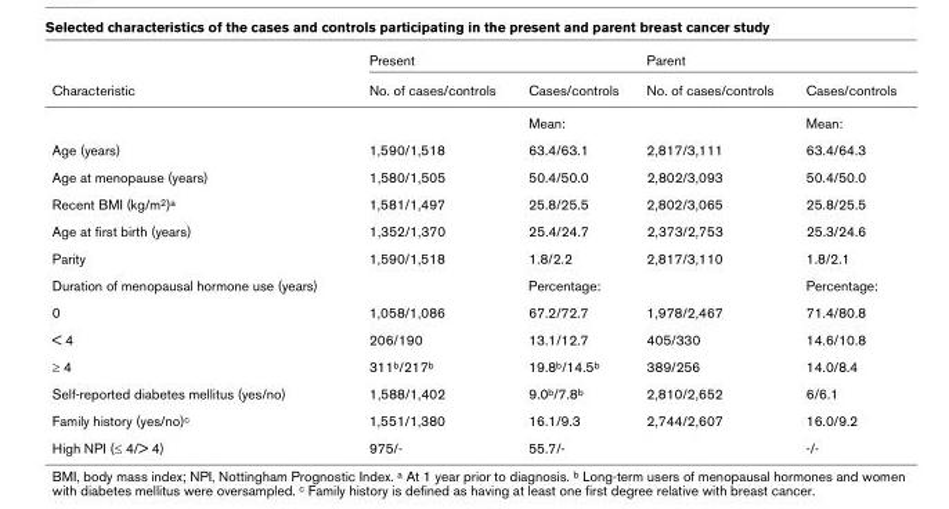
<table><thead><tr><td rowspan="2">Characteristic</td><td colspan="2">Present</td><td colspan="2">Parent</td></tr><tr><td>No. of cases/controls</td><td>Cases/controls</td><td>No. of cases/controls</td><td>Cases/controls</td></tr></thead><tbody><tr><td></td><td></td><td>Mean:</td><td></td><td>Mean:</td></tr><tr><td>Age (years)</td><td>1,590/1,518</td><td>63.4/63.1</td><td>2,817/3,111</td><td>63.4/64.3</td></tr><tr><td>Age at menopause (years)</td><td>1,580/1,505</td><td>50.4/50.0</td><td>2,802/3,093</td><td>50.4/50.0</td></tr><tr><td>Recent BMI (kg/m<sup>2</sup>)<sup>a</sup></td><td>1,581/1,497</td><td>25.8/25.5</td><td>2,802/3,065</td><td>25.8/25.5</td></tr><tr><td>Age at first birth (years)</td><td>1,352/1,370</td><td>25.4/24.7</td><td>2,373/2,753</td><td>25.3/24.6</td></tr><tr><td>Parity</td><td>1,590/1,518</td><td>1.8/2.2</td><td>2,817/3,110</td><td>1.8/2.1</td></tr><tr><td>Duration of menopausal hormone use (years)</td><td></td><td>Percentage:</td><td></td><td>Percentage:</td></tr><tr><td>0</td><td>1,058/1,086</td><td>67.2/72.7</td><td>1,978/2,467</td><td>71.4/80.8</td></tr><tr><td>&lt; 4</td><td>206/190</td><td>13.1/12.7</td><td>405/330</td><td>14.6/10.8</td></tr><tr><td>≥ 4</td><td>311<sup>b</sup>/217<sup>b</sup></td><td>19.8<sup>b</sup>/14.5<sup>b</sup></td><td>389/256</td><td>14.0/8.4</td></tr><tr><td>Self-reported diabetes mellitus (yes/no)</td><td>1,588/1,402</td><td>9.0<sup>b</sup>/7.8<sup>b</sup></td><td>2,810/2,652</td><td>6/6.1</td></tr><tr><td>Family history (yes/no)<sup>c</sup></td><td>1,551/1,380</td><td>16.1/9.3</td><td>2,744/2,607</td><td>16.0/9.2</td></tr><tr><td>High NPI (≤ 4/&gt; 4)</td><td>975/-</td><td>55.7/-</td><td></td><td>-/-</td></tr></tbody></table>